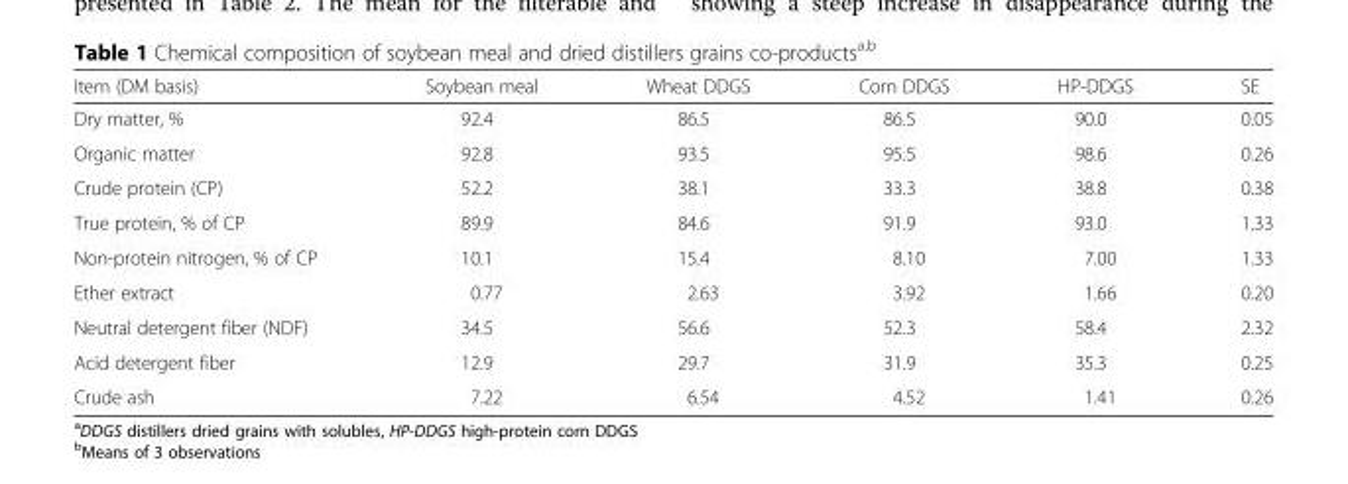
<table><thead><tr><td>Item (DM basis)</td><td>Soybean meal</td><td>Wheat DDGS</td><td>Corn DDGS</td><td>HP-DDGS</td><td>SE</td></tr></thead><tbody><tr><td>Dry matter, %</td><td>92.4</td><td>86.5</td><td>86.5</td><td>90.0</td><td>0.05</td></tr><tr><td>Organic matter</td><td>92.8</td><td>93.5</td><td>95.5</td><td>98.6</td><td>0.26</td></tr><tr><td>Crude protein (CP)</td><td>52.2</td><td>38.1</td><td>33.3</td><td>38.8</td><td>0.38</td></tr><tr><td>True protein, % of CP</td><td>89.9</td><td>84.6</td><td>91.9</td><td>93.0</td><td>1.33</td></tr><tr><td>Non-protein nitrogen, % of CP</td><td>10.1</td><td>15.4</td><td>8.10</td><td>7.00</td><td>1.33</td></tr><tr><td>Ether extract</td><td>0.77</td><td>2.63</td><td>3.92</td><td>1.66</td><td>0.20</td></tr><tr><td>Neutral detergent fiber (NDF)</td><td>34.5</td><td>56.6</td><td>52.3</td><td>58.4</td><td>2.32</td></tr><tr><td>Acid detergent fiber</td><td>12.9</td><td>29.7</td><td>31.9</td><td>35.3</td><td>0.25</td></tr><tr><td>Crude ash</td><td>7.22</td><td>6.54</td><td>4.52</td><td>1.41</td><td>0.26</td></tr></tbody></table>